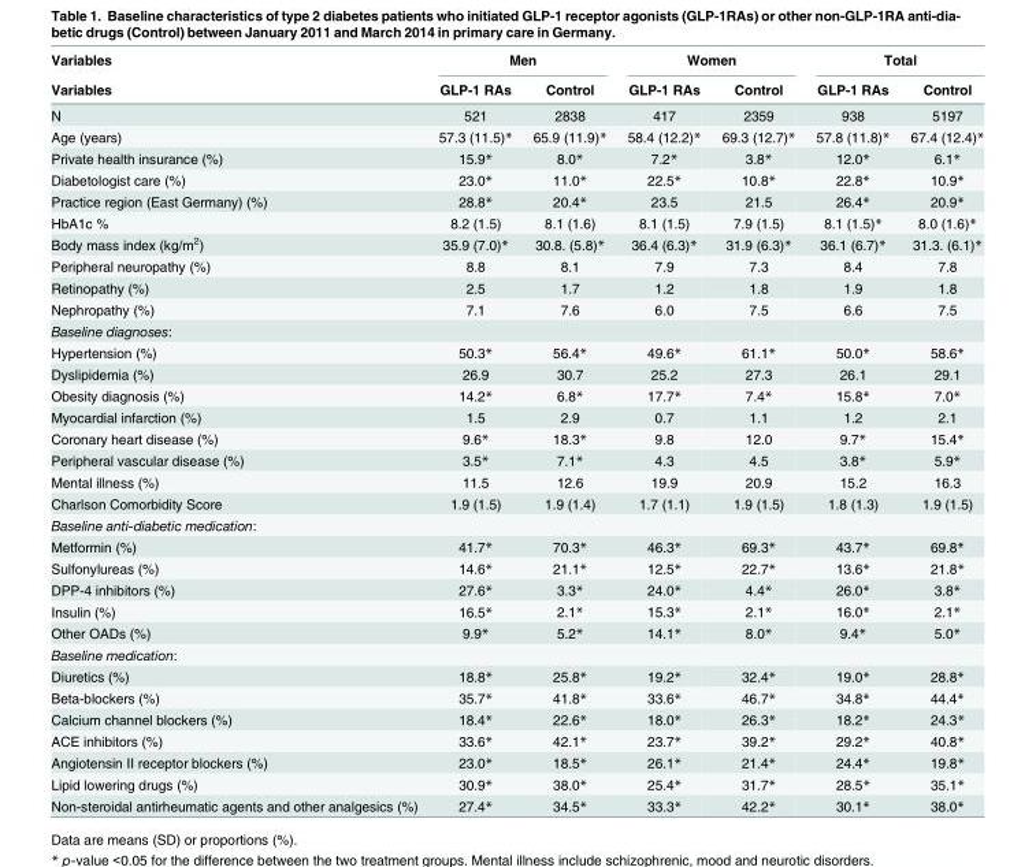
<table><thead><tr><td rowspan="2">Variables Variables</td><td colspan="2">Men</td><td colspan="2">Women</td><td colspan="2">Total</td></tr><tr><td>GLP-1 RAs</td><td>Control</td><td>GLP-1 RAs</td><td>Control</td><td>GLP-1 RAs</td><td>Control</td></tr></thead><tbody><tr><td>N</td><td>521</td><td>2838</td><td>417</td><td>2359</td><td>938</td><td>5197</td></tr><tr><td>Age (years)</td><td>57.3 (11.5)*</td><td>65.9 (11.9)*</td><td>58.4 (12.2)*</td><td>69.3 (12.7)*</td><td>57.8 (11.8)*</td><td>67.4 (12.4)*</td></tr><tr><td>Private health insurance (%)</td><td>15.9*</td><td>8.0*</td><td>7.2*</td><td>3.8*</td><td>12.0*</td><td>6.1*</td></tr><tr><td>Diabetologist care (%)</td><td>23.0*</td><td>11.0*</td><td>22.5*</td><td>10.8*</td><td>22.8*</td><td>10.9*</td></tr><tr><td>Practice region (East Germany) (%)</td><td>28.8*</td><td>20.4*</td><td>23.5</td><td>21.5</td><td>26.4*</td><td>20.9*</td></tr><tr><td>HbA1c %</td><td>8.2 (1.5)</td><td>8.1 (1.6)</td><td>8.1 (1.5)</td><td>7.9 (1.5)</td><td>8.1 (1.5)*</td><td>8.0 (1.6)*</td></tr><tr><td>Body mass index (kg/m<sup>2</sup>)</td><td>35.9 (7.0)*</td><td>30.8. (5.8)*</td><td>36.4 (6.3)*</td><td>31.9 (6.3)*</td><td>36.1 (6.7)*</td><td>31.3. (6.1)*</td></tr><tr><td>Peripheral neuropathy (%)</td><td>8.8</td><td>8.1</td><td>7.9</td><td>7.3</td><td>8.4</td><td>7.8</td></tr><tr><td>Retinopathy (%)</td><td>2.5</td><td>1.7</td><td>1.2</td><td>1.8</td><td>1.9</td><td>1.8</td></tr><tr><td>Nephropathy (%)</td><td>7.1</td><td>7.6</td><td>6.0</td><td>7.5</td><td>6.6</td><td>7.5</td></tr><tr><td colspan="7">Baseline diagnoses:</td></tr><tr><td>Hypertension (%)</td><td>50.3*</td><td>56.4*</td><td>49.6*</td><td>61.1*</td><td>50.0*</td><td>58.6*</td></tr><tr><td>Dyslipidemia (%)</td><td>26.9</td><td>30.7</td><td>25.2</td><td>27.3</td><td>26.1</td><td>29.1</td></tr><tr><td>Obesity diagnosis (%)</td><td>14.2*</td><td>6.8*</td><td>17.7*</td><td>7.4*</td><td>15.8*</td><td>7.0*</td></tr><tr><td>Myocardial infarction (%)</td><td>1.5</td><td>2.9</td><td>0.7</td><td>1.1</td><td>1.2</td><td>2.1</td></tr><tr><td>Coronary heart disease (%)</td><td>9.6*</td><td>18.3*</td><td>9.8</td><td>12.0</td><td>9.7*</td><td>15.4*</td></tr><tr><td>Peripheral vascular disease (%)</td><td>3.5*</td><td>7.1*</td><td>4.3</td><td>4.5</td><td>3.8*</td><td>5.9*</td></tr><tr><td>Mental illness (%)</td><td>11.5</td><td>12.6</td><td>19.9</td><td>20.9</td><td>15.2</td><td>16.3</td></tr><tr><td>Charlson Comorbidity Score</td><td>1.9 (1.5)</td><td>1.9 (1.4)</td><td>1.7 (1.1)</td><td>1.9 (1.5)</td><td>1.8 (1.3)</td><td>1.9 (1.5)</td></tr><tr><td colspan="7">Baseline anti-diabetic medication:</td></tr><tr><td>Metformin (%)</td><td>41.7*</td><td>70.3*</td><td>46.3*</td><td>69.3*</td><td>43.7*</td><td>69.8*</td></tr><tr><td>Sulfonylureas (%)</td><td>14.6*</td><td>21.1*</td><td>12.5*</td><td>22.7*</td><td>13.6*</td><td>21.8*</td></tr><tr><td>DPP-4 inhibitors (%)</td><td>27.6*</td><td>3.3*</td><td>24.0*</td><td>4.4*</td><td>26.0*</td><td>3.8*</td></tr><tr><td>Insulin (%)</td><td>16.5*</td><td>2.1*</td><td>15.3*</td><td>2.1*</td><td>16.0*</td><td>2.1*</td></tr><tr><td>Other OADs (%)</td><td>9.9*</td><td>5.2*</td><td>14.1*</td><td>8.0*</td><td>9.4*</td><td>5.0*</td></tr><tr><td colspan="7">Baseline medication:</td></tr><tr><td>Diuretics (%)</td><td>18.8*</td><td>25.8*</td><td>19.2*</td><td>32.4*</td><td>19.0*</td><td>28.8*</td></tr><tr><td>Beta-blockers (%)</td><td>35.7*</td><td>41.8*</td><td>33.6*</td><td>46.7*</td><td>34.8*</td><td>44.4*</td></tr><tr><td>Calcium channel blockers (%)</td><td>18.4*</td><td>22.6*</td><td>18.0*</td><td>26.3*</td><td>18.2*</td><td>24.3*</td></tr><tr><td>ACE inhibitors (%)</td><td>33.6*</td><td>42.1*</td><td>23.7*</td><td>39.2*</td><td>29.2*</td><td>40.8*</td></tr><tr><td>Angiotensin II receptor blockers (%)</td><td>23.0*</td><td>18.5*</td><td>26.1*</td><td>21.4*</td><td>24.4*</td><td>19.8*</td></tr><tr><td>Lipid lowering drugs (%)</td><td>30.9*</td><td>38.0*</td><td>25.4*</td><td>31.7*</td><td>28.5*</td><td>35.1*</td></tr><tr><td>Non-steroidal antirheumatic agents and other analgesics (%)</td><td>27.4*</td><td>34.5*</td><td>33.3*</td><td>42.2*</td><td>30.1*</td><td>38.0*</td></tr></tbody></table>